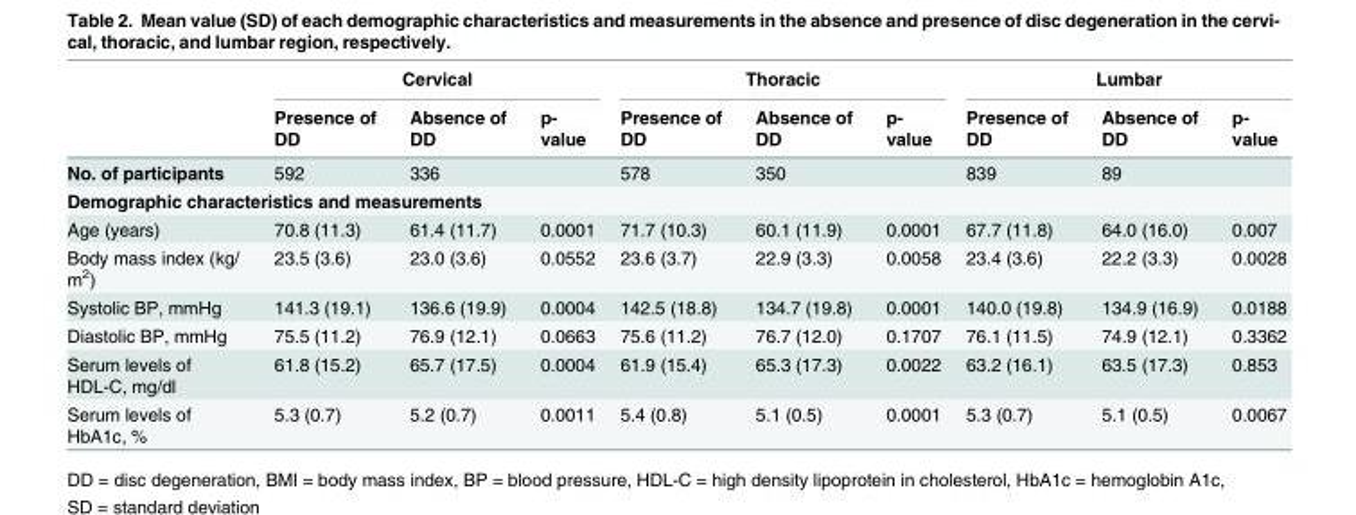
<table><thead><tr><td rowspan="2"></td><td colspan="3">Cervical</td><td colspan="3">Thoracic</td><td colspan="3">Lumbar</td></tr><tr><td>Presence of DD</td><td>Absence of DD</td><td>p- value</td><td>Presence of DD</td><td>Absence of DD</td><td>p- value</td><td>Presence of DD</td><td>Absence of DD</td><td>p- value</td></tr></thead><tbody><tr><td>No. of participants</td><td>592</td><td>336</td><td></td><td>578</td><td>350</td><td></td><td>839</td><td>89</td><td></td></tr><tr><td colspan="10">Demographic characteristics and measurements</td></tr><tr><td>Age (years)</td><td>70.8 (11.3)</td><td>61.4 (11.7)</td><td>0.0001</td><td>71.7 (10.3)</td><td>60.1 (11.9)</td><td>0.0001</td><td>67.7 (11.8)</td><td>64.0 (16.0)</td><td>0.007</td></tr><tr><td>Body mass index (kg/ m<sup>2</sup>)</td><td>23.5 (3.6)</td><td>23.0 (3.6)</td><td>0.0552</td><td>23.6 (3.7)</td><td>22.9 (3.3)</td><td>0.0058</td><td>23.4 (3.6)</td><td>22.2 (3.3)</td><td>0.0028</td></tr><tr><td>Systolic BP, mmHg</td><td>141.3 (19.1)</td><td>136.6 (19.9)</td><td>0.0004</td><td>142.5 (18.8)</td><td>134.7 (19.8)</td><td>0.0001</td><td>140.0 (19.8)</td><td>134.9 (16.9)</td><td>0.0188</td></tr><tr><td>Diastolic BP, mmHg</td><td>75.5 (11.2)</td><td>76.9 (12.1)</td><td>0.0663</td><td>75.6 (11.2)</td><td>76.7 (12.0)</td><td>0.1707</td><td>76.1 (11.5)</td><td>74.9 (12.1)</td><td>0.3362</td></tr><tr><td>Serum levels of HDL-C, mg/dl</td><td>61.8 (15.2)</td><td>65.7 (17.5)</td><td>0.0004</td><td>61.9 (15.4)</td><td>65.3 (17.3)</td><td>0.0022</td><td>63.2 (16.1)</td><td>63.5 (17.3)</td><td>0.853</td></tr><tr><td>Serum levels of HbA1c, %</td><td>5.3 (0.7)</td><td>5.2 (0.7)</td><td>0.0011</td><td>5.4 (0.8)</td><td>5.1 (0.5)</td><td>0.0001</td><td>5.3 (0.7)</td><td>5.1 (0.5)</td><td>0.0067</td></tr></tbody></table>